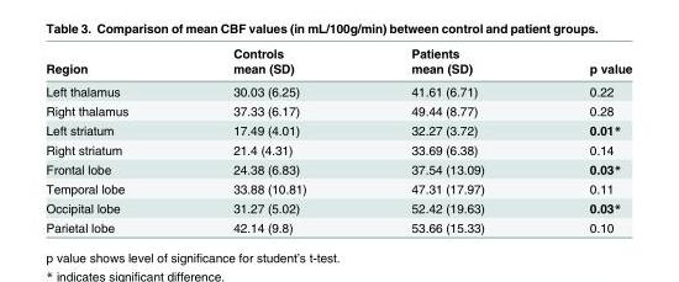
<table><thead><tr><td rowspan="2">Region</td><td rowspan="2">Controls mean (SD)</td><td rowspan="2">Patients mean (SD)</td><td rowspan="2">p value</td></tr><tr></tr></thead><tbody><tr><td>Left thalamus</td><td>30.03 (6.25)</td><td>41.61 (6.71)</td><td>0.22</td></tr><tr><td>Right thalamus</td><td>37.33 (6.17)</td><td>49.44 (8.77)</td><td>0.28</td></tr><tr><td>Left striatum</td><td>17.49 (4.01)</td><td>32.27 (3.72)</td><td>0.01*</td></tr><tr><td>Right striatum</td><td>21.4 (4.31)</td><td>33.69 (6.38)</td><td>0.14</td></tr><tr><td>Frontal lobe</td><td>24.38 (6.83)</td><td>37.54 (13.09)</td><td>0.03*</td></tr><tr><td>Temporal lobe</td><td>33.88 (10.81)</td><td>47.31 (17.97)</td><td>0.11</td></tr><tr><td>Occipital lobe</td><td>31.27 (5.02)</td><td>52.42 (19.63)</td><td>0.03*</td></tr><tr><td>Parietal lobe</td><td>42.14 (9.8)</td><td>53.66 (15.33)</td><td>0.10</td></tr></tbody></table>